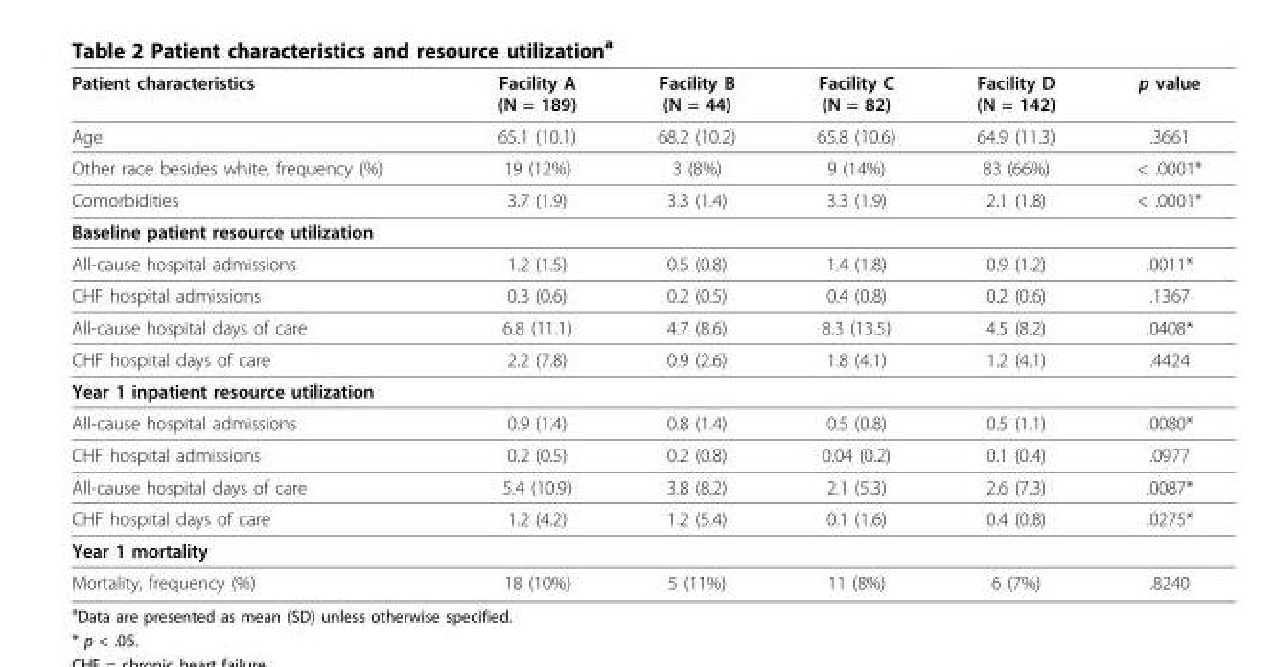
<table><thead><tr><td>Patient characteristics</td><td>Facility A (N = 189)</td><td>Facility B (N = 44)</td><td>Facility C (N = 82)</td><td>Facility D (N = 142)</td><td>p value</td></tr></thead><tbody><tr><td>Age</td><td>65.1 (10.1)</td><td>68.2 (10.2)</td><td>65.8 (10.6)</td><td>64.9 (11.3)</td><td>.3661</td></tr><tr><td>Other race besides white, frequency (%)</td><td>19 (12%)</td><td>3 (8%)</td><td>9 (14%)</td><td>83 (66%)</td><td>&lt; .0001*</td></tr><tr><td>Comorbidities</td><td>3.7 (1.9)</td><td>3.3 (1.4)</td><td>3.3 (1.9)</td><td>2.1 (1.8)</td><td>&lt; .0001*</td></tr><tr><td colspan="6">Baseline patient resource utilization</td></tr><tr><td>All-cause hospital admissions</td><td>1.2 (1.5)</td><td>0.5 (0.8)</td><td>1.4 (1.8)</td><td>0.9 (1.2)</td><td>.0011*</td></tr><tr><td>CHF hospital admissions</td><td>0.3 (0.6)</td><td>0.2 (0.5)</td><td>0.4 (0.8)</td><td>0.2 (0.6)</td><td>.1367</td></tr><tr><td>All-cause hospital days of care</td><td>6.8 (11.1)</td><td>4.7 (8.6)</td><td>8.3 (13.5)</td><td>4.5 (8.2)</td><td>.0408*</td></tr><tr><td>CHF hospital days of care</td><td>2.2 (7.8)</td><td>0.9 (2.6)</td><td>1.8 (4.1)</td><td>1.2 (4.1)</td><td>.4424</td></tr><tr><td colspan="6">Year 1 inpatient resource utilization</td></tr><tr><td>All-cause hospital admissions</td><td>0.9 (1.4)</td><td>0.8 (1.4)</td><td>0.5 (0.8)</td><td>0.5 (1.1)</td><td>.0080*</td></tr><tr><td>CHF hospital admissions</td><td>0.2 (0.5)</td><td>0.2 (0.8)</td><td>0.04 (0.2)</td><td>0.1 (0.4)</td><td>.0977</td></tr><tr><td>All-cause hospital days of care</td><td>5.4 (10.9)</td><td>3.8 (8.2)</td><td>2.1 (5.3)</td><td>2.6 (7.3)</td><td>.0087*</td></tr><tr><td>CHF hospital days of care</td><td>1.2 (4.2)</td><td>1.2 (5.4)</td><td>0.1 (1.6)</td><td>0.4 (0.8)</td><td>.0275*</td></tr><tr><td colspan="6">Year 1 mortality</td></tr><tr><td>Mortality, frequency (%)</td><td>18 (10%)</td><td>5 (11%)</td><td>11 (8%)</td><td>6 (7%)</td><td>.8240</td></tr></tbody></table>